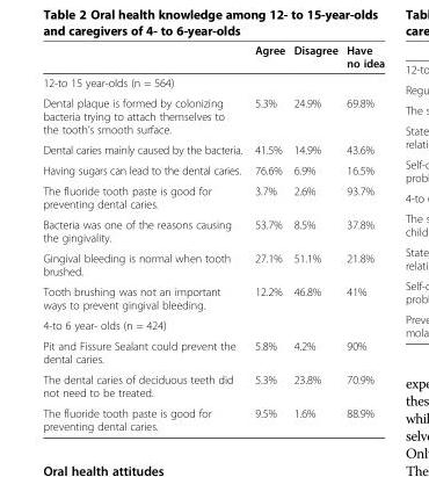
<table><thead><tr><td></td><td>Agree</td><td>Disagree</td><td>Have no idea</td></tr></thead><tbody><tr><td colspan="4">12-to 15 year-olds (n = 564)</td></tr><tr><td>Dental plaque is formed by colonizing bacteria trying to attach themselves to the tooth’s smooth surface.</td><td>5.3%</td><td>24.9%</td><td>69.8%</td></tr><tr><td>Dental caries mainly caused by the bacteria.</td><td>41.5%</td><td>14.9%</td><td>43.6%</td></tr><tr><td>Having sugars can lead to the dental caries.</td><td>76.6%</td><td>6.9%</td><td>16.5%</td></tr><tr><td>The fluoride tooth paste is good for preventing dental caries.</td><td>3.7%</td><td>2.6%</td><td>93.7%</td></tr><tr><td>Bacteria was one of the reasons causing the gingivality.</td><td>53.7%</td><td>8.5%</td><td>37.8%</td></tr><tr><td>Gingival bleeding is normal when tooth brushed.</td><td>27.1%</td><td>51.1%</td><td>21.8%</td></tr><tr><td>Tooth brushing was not an important ways to prevent gingival bleeding.</td><td>12.2%</td><td>46.8%</td><td>41%</td></tr><tr><td colspan="4">4-to 6 year- olds (n = 424)</td></tr><tr><td>Pit and Fissure Sealant could prevent the dental caries.</td><td>5.8%</td><td>4.2%</td><td>90%</td></tr><tr><td>The dental caries of deciduous teeth did not need to be treated.</td><td>5.3%</td><td>23.8%</td><td>70.9%</td></tr><tr><td>The fluoride tooth paste is good for preventing dental caries.</td><td>9.5%</td><td>1.6%</td><td>88.9%</td></tr></tbody></table>